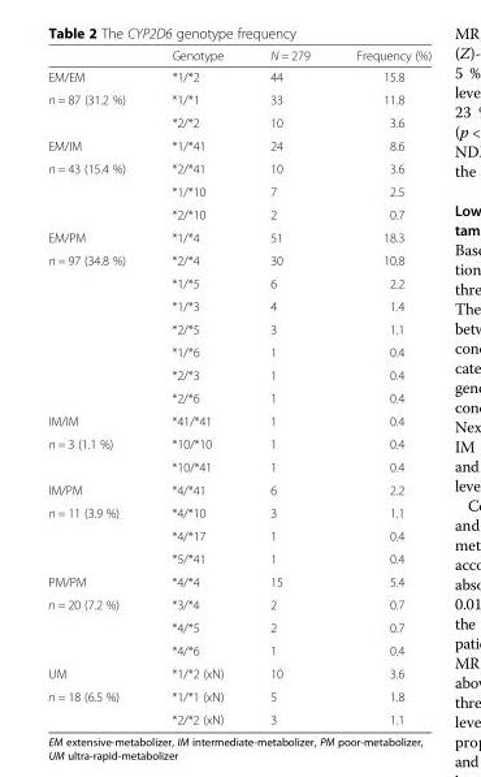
<table><thead><tr><td></td><td>Genotype</td><td>N = 279</td><td>Frequency (%)</td></tr></thead><tbody><tr><td>EM/EM</td><td>*1/*2</td><td>44</td><td>15.8</td></tr><tr><td rowspan="2">n = 87 (31.2 %)</td><td>*1/*1</td><td>33</td><td>11.8</td></tr><tr><td>*2/*2</td><td>10</td><td>3.6</td></tr><tr><td>EM/IM</td><td>*1/*41</td><td>24</td><td>8.6</td></tr><tr><td rowspan="3">n = 43 (15.4 %)</td><td>*2/*41</td><td>10</td><td>3.6</td></tr><tr><td>*1/*10</td><td>7</td><td>2.5</td></tr><tr><td>*2/*10</td><td>2</td><td>0.7</td></tr><tr><td>EM/PM</td><td>*1/*4</td><td>51</td><td>18.3</td></tr><tr><td rowspan="7">n = 97 (34.8 %)</td><td>*2/*4</td><td>30</td><td>10.8</td></tr><tr><td>*1/*5</td><td>6</td><td>2.2</td></tr><tr><td>*1/*3</td><td>4</td><td>1.4</td></tr><tr><td>*2/*5</td><td>3</td><td>1.1</td></tr><tr><td>*1/*6</td><td>1</td><td>0.4</td></tr><tr><td>*2/*3</td><td>1</td><td>0.4</td></tr><tr><td>*2/*6</td><td>1</td><td>0.4</td></tr><tr><td>IM/IM</td><td>*41/*41</td><td>1</td><td>0.4</td></tr><tr><td rowspan="2">n = 3 (1.1 %)</td><td>*10/*10</td><td>1</td><td>0.4</td></tr><tr><td>*10/*41</td><td>1</td><td>0.4</td></tr><tr><td>IM/PM</td><td>*4/*41</td><td>6</td><td>2.2</td></tr><tr><td rowspan="3">n = 11 (3.9 %)</td><td>*4/*10</td><td>3</td><td>1.1</td></tr><tr><td>*4/*17</td><td>1</td><td>0.4</td></tr><tr><td>*5/*41</td><td>1</td><td>0.4</td></tr><tr><td>PM/PM</td><td>*4/*4</td><td>15</td><td>5.4</td></tr><tr><td rowspan="3">n = 20 (7.2 %)</td><td>*3/*4</td><td>2</td><td>0.7</td></tr><tr><td>*4/*5</td><td>2</td><td>0.7</td></tr><tr><td>*4/*6</td><td>1</td><td>0.4</td></tr><tr><td>UM</td><td>*1/*2 (xN)</td><td>10</td><td>3.6</td></tr><tr><td rowspan="2">n = 18 (6.5 %)</td><td>*1/*1 (xN)</td><td>5</td><td>1.8</td></tr><tr><td>*2/*2 (xN)</td><td>3</td><td>1.1</td></tr></tbody></table>